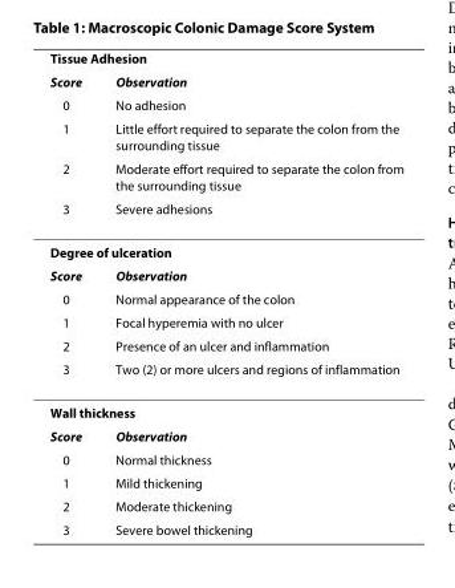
<table><thead><tr><td colspan="2">Tissue Adhesion</td></tr><tr><td rowspan="5">Score 0 1 2 3</td><td rowspan="5">Observation No adhesion Little effort required to separate the colon from the surrounding tissue Moderate effort required to separate the colon from the surrounding tissue Severe adhesions</td></tr><tr></tr><tr></tr><tr></tr><tr></tr></thead><tbody><tr><td colspan="2">Degree of ulceration</td></tr><tr><td>Score</td><td>Observation</td></tr><tr><td>0</td><td>Normal appearance of the colon</td></tr><tr><td>1</td><td>Focal hyperemia with no ulcer</td></tr><tr><td>2</td><td>Presence of an ulcer and inflammation</td></tr><tr><td>3</td><td>Two (2) or more ulcers and regions of inflammation</td></tr><tr><td colspan="2">Wall thickness</td></tr><tr><td>Score</td><td>Observation</td></tr><tr><td>0</td><td>Normal thickness</td></tr><tr><td>1</td><td>Mild thickening</td></tr><tr><td>2</td><td>Moderate thickening</td></tr><tr><td>3</td><td>Severe bowel thickening</td></tr></tbody></table>